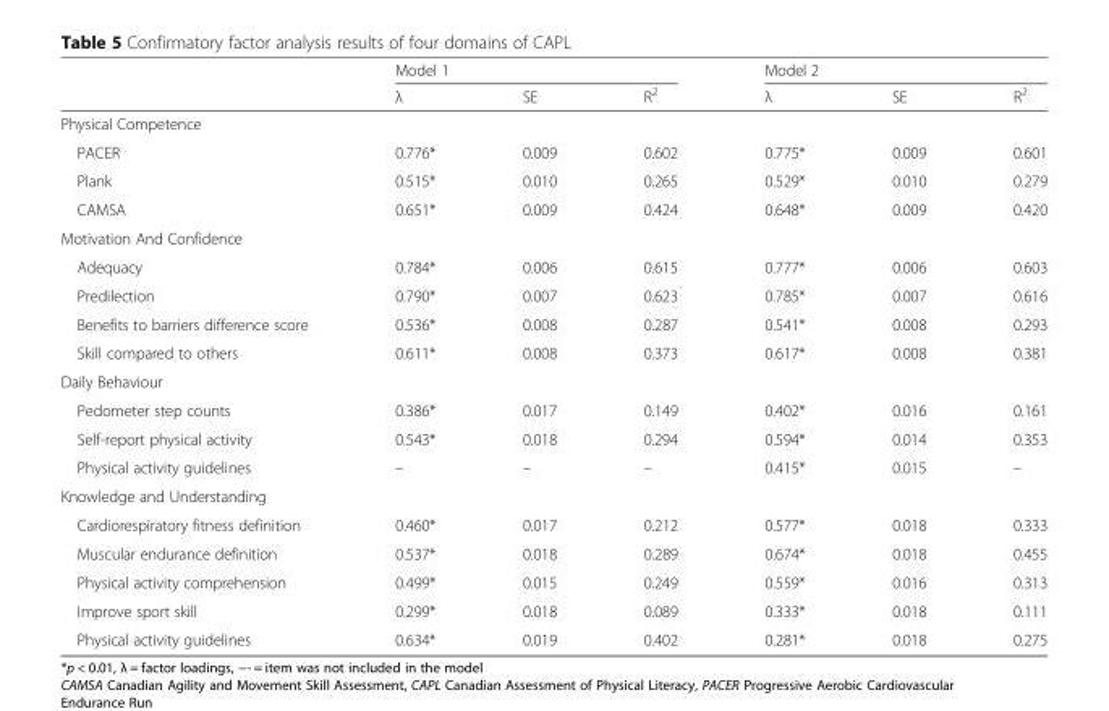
<table><thead><tr><td rowspan="2"></td><td colspan="3">Model 1</td><td colspan="3">Model 2</td></tr><tr><td>λ</td><td>SE</td><td>R<sup>2</sup></td><td>λ</td><td>SE</td><td>R<sup>2</sup></td></tr></thead><tbody><tr><td colspan="7">Physical Competence</td></tr><tr><td>PACER</td><td>0.776*</td><td>0.009</td><td>0.602</td><td>0.775*</td><td>0.009</td><td>0.601</td></tr><tr><td>Plank</td><td>0.515*</td><td>0.010</td><td>0.265</td><td>0.529*</td><td>0.010</td><td>0.279</td></tr><tr><td>CAMSA</td><td>0.651*</td><td>0.009</td><td>0.424</td><td>0.648*</td><td>0.009</td><td>0.420</td></tr><tr><td colspan="7">Motivation And Confidence</td></tr><tr><td>Adequacy</td><td>0.784*</td><td>0.006</td><td>0.615</td><td>0.777*</td><td>0.006</td><td>0.603</td></tr><tr><td>Predilection</td><td>0.790*</td><td>0.007</td><td>0.623</td><td>0.785*</td><td>0.007</td><td>0.616</td></tr><tr><td>Benefits to barriers difference score</td><td>0.536*</td><td>0.008</td><td>0.287</td><td>0.541*</td><td>0.008</td><td>0.293</td></tr><tr><td>Skill compared to others</td><td>0.611*</td><td>0.008</td><td>0.373</td><td>0.617*</td><td>0.008</td><td>0.381</td></tr><tr><td colspan="7">Daily Behaviour</td></tr><tr><td>Pedometer step counts</td><td>0.386*</td><td>0.017</td><td>0.149</td><td>0.402*</td><td>0.016</td><td>0.161</td></tr><tr><td>Self-report physical activity</td><td>0.543*</td><td>0.018</td><td>0.294</td><td>0.594*</td><td>0.014</td><td>0.353</td></tr><tr><td>Physical activity guidelines</td><td>–</td><td>–</td><td>–</td><td>0.415*</td><td>0.015</td><td>–</td></tr><tr><td colspan="7">Knowledge and Understanding</td></tr><tr><td>Cardiorespiratory fitness definition</td><td>0.460*</td><td>0.017</td><td>0.212</td><td>0.577*</td><td>0.018</td><td>0.333</td></tr><tr><td>Muscular endurance definition</td><td>0.537*</td><td>0.018</td><td>0.289</td><td>0.674*</td><td>0.018</td><td>0.455</td></tr><tr><td>Physical activity comprehension</td><td>0.499*</td><td>0.015</td><td>0.249</td><td>0.559*</td><td>0.016</td><td>0.313</td></tr><tr><td>Improve sport skill</td><td>0.299*</td><td>0.018</td><td>0.089</td><td>0.333*</td><td>0.018</td><td>0.111</td></tr><tr><td>Physical activity guidelines</td><td>0.634*</td><td>0.019</td><td>0.402</td><td>0.281*</td><td>0.018</td><td>0.275</td></tr></tbody></table>